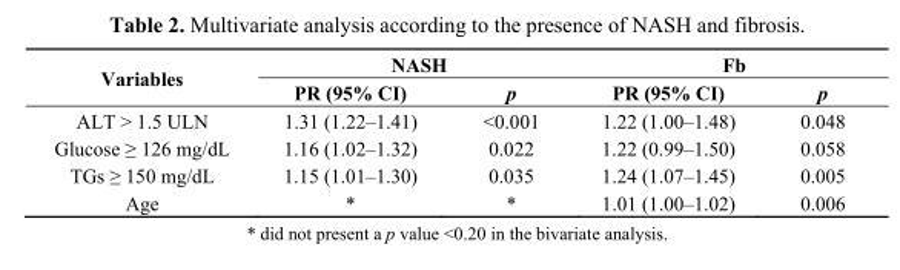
<table><thead><tr><td rowspan="2">Variables</td><td colspan="2">NASH</td><td colspan="2">Fb</td></tr><tr><td>PR (95% CI)</td><td>p</td><td>PR (95% CI)</td><td>p</td></tr></thead><tbody><tr><td>ALT &gt; 1.5 ULN</td><td>1.31 (1.22–1.41)</td><td>&lt;0.001</td><td>1.22 (1.00–1.48)</td><td>0.048</td></tr><tr><td>Glucose ≥ 126 mg/dL</td><td>1.16 (1.02–1.32)</td><td>0.022</td><td>1.22 (0.99–1.50)</td><td>0.058</td></tr><tr><td>TGs ≥ 150 mg/dL</td><td>1.15 (1.01–1.30)</td><td>0.035</td><td>1.24 (1.07–1.45)</td><td>0.005</td></tr><tr><td>Age</td><td>*</td><td>*</td><td>1.01 (1.00–1.02)</td><td>0.006</td></tr></tbody></table>